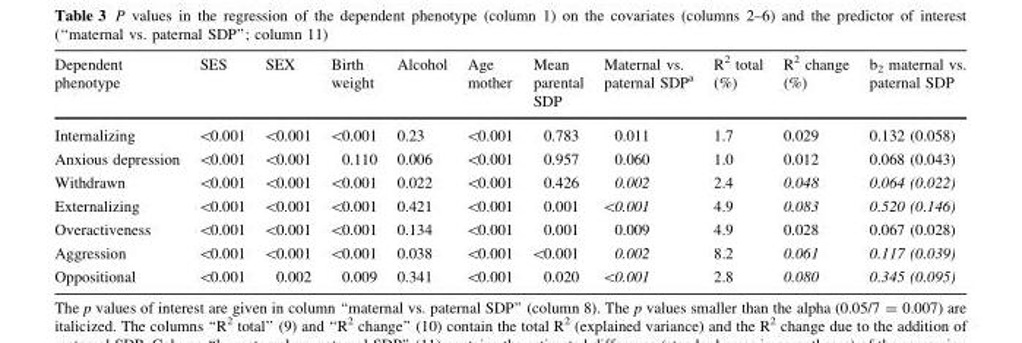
<table><thead><tr><td>Dependent phenotype</td><td>SES</td><td>SEX</td><td>Birth weight</td><td>Alcohol</td><td>Age mother</td><td>Mean parental SDP</td><td>Maternal vs. paternal SDP<sup>a</sup></td><td>R<sup>2</sup> total (%)</td><td>R<sup>2</sup> change (%)</td><td>b<sub>2</sub> maternal vs. paternal SDP</td></tr></thead><tbody><tr><td>Internalizing</td><td>&lt;0.001</td><td>&lt;0.001</td><td>&lt;0.001</td><td>0.23</td><td>&lt;0.001</td><td>0.783</td><td>0.011</td><td>1.7</td><td>0.029</td><td>0.132 (0.058)</td></tr><tr><td>Anxious depression</td><td>&lt;0.001</td><td>&lt;0.001</td><td>0.110</td><td>0.006</td><td>&lt;0.001</td><td>0.957</td><td>0.060</td><td>1.0</td><td>0.012</td><td>0.068 (0.043)</td></tr><tr><td>Withdrawn</td><td>&lt;0.001</td><td>&lt;0.001</td><td>&lt;0.001</td><td>0.022</td><td>&lt;0.001</td><td>0.426</td><td>0.002</td><td>2.4</td><td>0.048</td><td>0.064 (0.022)</td></tr><tr><td>Externalizing</td><td>&lt;0.001</td><td>&lt;0.001</td><td>&lt;0.001</td><td>0.421</td><td>&lt;0.001</td><td>0.001</td><td>&lt;0.001</td><td>4.9</td><td>0.083</td><td>0.520 (0.146)</td></tr><tr><td>Overactiveness</td><td>&lt;0.001</td><td>&lt;0.001</td><td>&lt;0.001</td><td>0.134</td><td>&lt;0.001</td><td>0.001</td><td>0.009</td><td>4.9</td><td>0.028</td><td>0.067 (0.028)</td></tr><tr><td>Aggression</td><td>&lt;0.001</td><td>&lt;0.001</td><td>&lt;0.001</td><td>0.038</td><td>&lt;0.001</td><td>&lt;0.001</td><td>0.002</td><td>8.2</td><td>0.061</td><td>0.117 (0.039)</td></tr><tr><td>Oppositional</td><td>&lt;0.001</td><td>0.002</td><td>0.009</td><td>0.341</td><td>&lt;0.001</td><td>0.020</td><td>&lt;0.001</td><td>2.8</td><td>0.080</td><td>0.345 (0.095)</td></tr></tbody></table>